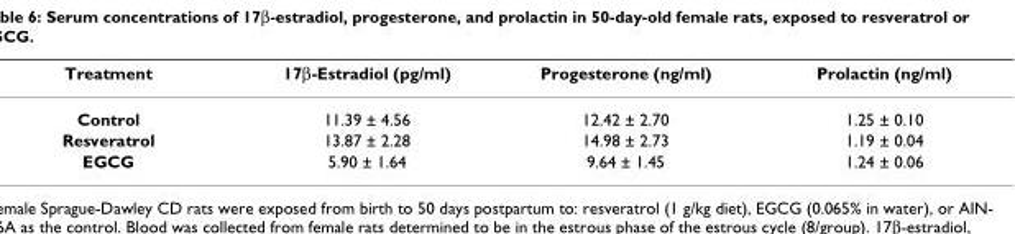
<table><thead><tr><td>Treatment</td><td>17β-Estradiol (pg/ml)</td><td>Progesterone (ng/ml)</td><td>Prolactin (ng/ml)</td></tr></thead><tbody><tr><td>Control</td><td>11.39 ± 4.56</td><td>12.42 ± 2.70</td><td>1.25 ± 0.10</td></tr><tr><td>Resveratrol</td><td>13.87 ± 2.28</td><td>14.98 ± 2.73</td><td>1.19 ± 0.04</td></tr><tr><td>EGCG</td><td>5.90 ± 1.64</td><td>9.64 ± 1.45</td><td>1.24 ± 0.06</td></tr></tbody></table>